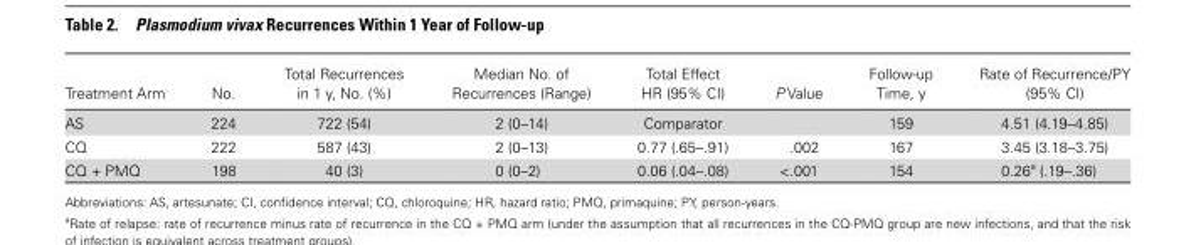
<table><thead><tr><td>Treatment Arm</td><td>No.</td><td>Total Recurrences in 1 y, No. (%)</td><td>Median No. of Recurrences (Range)</td><td>Total Effect HR (95% CI)</td><td>P Value</td><td>Follow-up Time, y</td><td>Rate of Recurrence/PY (95% CI)</td></tr></thead><tbody><tr><td>AS</td><td>224</td><td>722 (54)</td><td>2 (0–14)</td><td>Comparator</td><td></td><td>159</td><td>4.51 (4.19–4.85)</td></tr><tr><td>CQ</td><td>222</td><td>587 (43)</td><td>2 (0–13)</td><td>0.77 (.65–.91)</td><td>.002</td><td>167</td><td>3.45 (3.18–3.75)</td></tr><tr><td>CQ + PMQ</td><td>198</td><td>40 (3)</td><td>0 (0–2)</td><td>0.06 (.04–.08)</td><td>&lt;.001</td><td>154</td><td>0.26<sup>a</sup> (.19–.36)</td></tr></tbody></table>